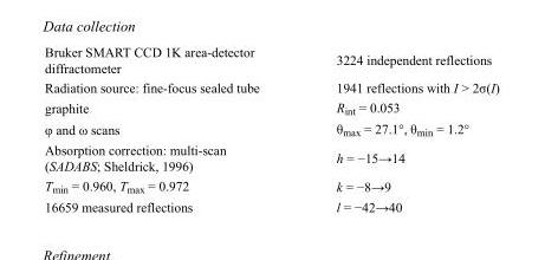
<table><tbody><tr><td>Bruker SMART CCD 1K area-detector diffractometer</td><td>3224 independent reflections</td></tr><tr><td>Radiation source: fine-focus sealed tube</td><td>1941 reflections with I &gt; 2σ(I)</td></tr><tr><td>graphite</td><td>R<sub>int</sub> = 0.053</td></tr><tr><td>φ and ω scans</td><td>θ<sub>max</sub> = 27.1°, θ<sub>min</sub> = 1.2°</td></tr><tr><td>Absorption correction: multi-scan (SADABS; Sheldrick, 1996)</td><td>h = −15→14</td></tr><tr><td>T<sub>min</sub> = 0.960, T<sub>max</sub> = 0.972</td><td>k = −8→9</td></tr><tr><td>16659 measured reflections</td><td>l = −42→40</td></tr></tbody></table>